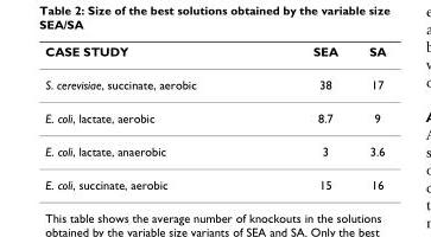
<table><thead><tr><td>CASE STUDY</td><td>SEA</td><td>SA</td></tr></thead><tbody><tr><td>S. cerevisiae, succinate, aerobic</td><td>38</td><td>17</td></tr><tr><td>E. coli, lactate, aerobic</td><td>8.7</td><td>9</td></tr><tr><td>E. coli, lactate, anaerobic</td><td>3</td><td>3.6</td></tr><tr><td>E. coli, succinate, aerobic</td><td>15</td><td>16</td></tr></tbody></table>